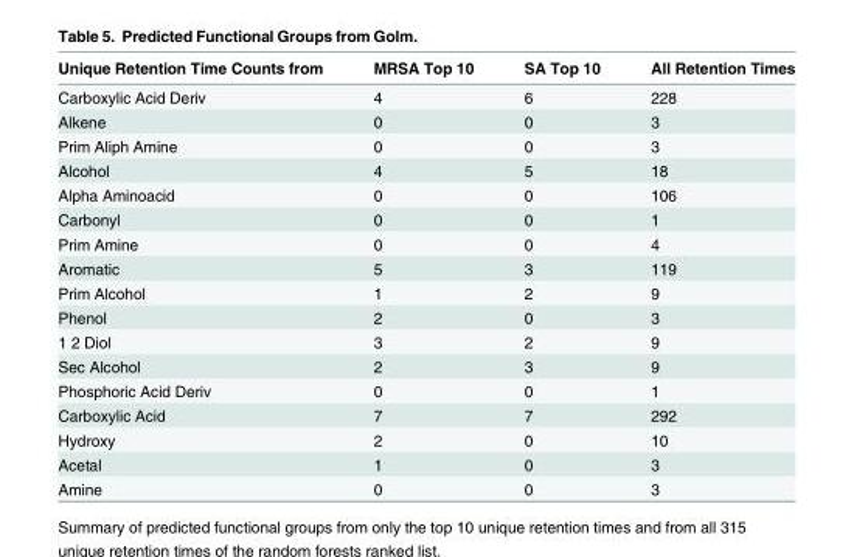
<table><thead><tr><td>Unique Retention Time Counts from</td><td>MRSA Top 10</td><td>SA Top 10</td><td>All Retention Times</td></tr></thead><tbody><tr><td>Carboxylic Acid Deriv</td><td>4</td><td>6</td><td>228</td></tr><tr><td>Alkene</td><td>0</td><td>0</td><td>3</td></tr><tr><td>Prim Aliph Amine</td><td>0</td><td>0</td><td>3</td></tr><tr><td>Alcohol</td><td>4</td><td>5</td><td>18</td></tr><tr><td>Alpha Aminoacid</td><td>0</td><td>0</td><td>106</td></tr><tr><td>Carbonyl</td><td>0</td><td>0</td><td>1</td></tr><tr><td>Prim Amine</td><td>0</td><td>0</td><td>4</td></tr><tr><td>Aromatic</td><td>5</td><td>3</td><td>119</td></tr><tr><td>Prim Alcohol</td><td>1</td><td>2</td><td>9</td></tr><tr><td>Phenol</td><td>2</td><td>0</td><td>3</td></tr><tr><td>1 2 Diol</td><td>3</td><td>2</td><td>9</td></tr><tr><td>Sec Alcohol</td><td>2</td><td>3</td><td>9</td></tr><tr><td>Phosphoric Acid Deriv</td><td>0</td><td>0</td><td>1</td></tr><tr><td>Carboxylic Acid</td><td>7</td><td>7</td><td>292</td></tr><tr><td>Hydroxy</td><td>2</td><td>0</td><td>10</td></tr><tr><td>Acetal</td><td>1</td><td>0</td><td>3</td></tr><tr><td>Amine</td><td>0</td><td>0</td><td>3</td></tr></tbody></table>